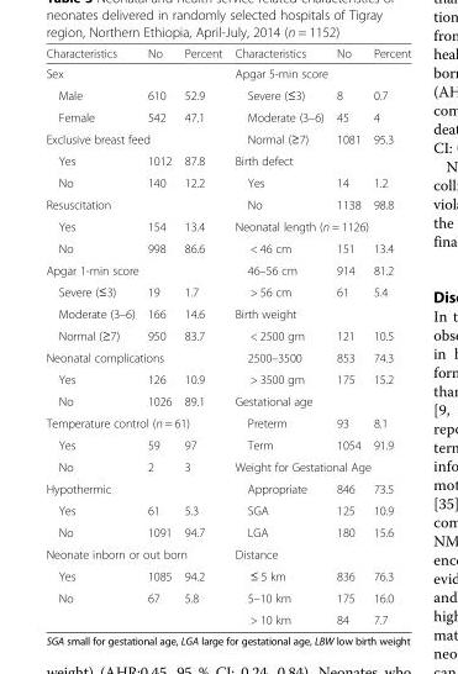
<table><thead><tr><td>Characteristics</td><td>No</td><td>Percent</td><td>Characteristics</td><td>No</td><td>Percent</td></tr></thead><tbody><tr><td colspan="3">Sex</td><td colspan="3">Apgar 5-min score</td></tr><tr><td>Male</td><td>610</td><td>52.9</td><td>Severe (≤3)</td><td>8</td><td>0.7</td></tr><tr><td>Female</td><td>542</td><td>47.1</td><td>Moderate (3–6)</td><td>45</td><td>4</td></tr><tr><td colspan="3">Exclusive breast feed</td><td>Normal (≥7)</td><td>1081</td><td>95.3</td></tr><tr><td>Yes</td><td>1012</td><td>87.8</td><td colspan="3">Birth defect</td></tr><tr><td>No</td><td>140</td><td>12.2</td><td>Yes</td><td>14</td><td>1.2</td></tr><tr><td colspan="3">Resuscitation</td><td>No</td><td>1138</td><td>98.8</td></tr><tr><td>Yes</td><td>154</td><td>13.4</td><td colspan="3">Neonatal length (n = 1126)</td></tr><tr><td>No</td><td>998</td><td>86.6</td><td>&lt; 46 cm</td><td>151</td><td>13.4</td></tr><tr><td colspan="3">Apgar 1-min score</td><td>46–56 cm</td><td>914</td><td>81.2</td></tr><tr><td>Severe (≤3)</td><td>19</td><td>1.7</td><td>&gt; 56 cm</td><td>61</td><td>5.4</td></tr><tr><td>Moderate (3–6)</td><td>166</td><td>14.6</td><td colspan="3">Birth weight</td></tr><tr><td>Normal (≥7)</td><td>950</td><td>83.7</td><td>&lt; 2500 gm</td><td>121</td><td>10.5</td></tr><tr><td colspan="3">Neonatal complications</td><td>2500–3500</td><td>853</td><td>74.3</td></tr><tr><td>Yes</td><td>126</td><td>10.9</td><td>&gt; 3500 gm</td><td>175</td><td>15.2</td></tr><tr><td>No</td><td>1026</td><td>89.1</td><td colspan="3">Gestational age</td></tr><tr><td colspan="3">Temperature control (n = 61)</td><td>Preterm</td><td>93</td><td>8.1</td></tr><tr><td>Yes</td><td>59</td><td>97</td><td>Term</td><td>1054</td><td>91.9</td></tr><tr><td>No</td><td>2</td><td>3</td><td colspan="3">Weight for Gestational Age</td></tr><tr><td colspan="3">Hypothermic</td><td>Appropriate</td><td>846</td><td>73.5</td></tr><tr><td>Yes</td><td>61</td><td>5.3</td><td>SGA</td><td>125</td><td>10.9</td></tr><tr><td>No</td><td>1091</td><td>94.7</td><td>LGA</td><td>180</td><td>15.6</td></tr><tr><td colspan="3">Neonate inborn or out born</td><td colspan="3">Distance</td></tr><tr><td>Yes</td><td>1085</td><td>94.2</td><td>≤ 5 km</td><td>836</td><td>76.3</td></tr><tr><td>No</td><td>67</td><td>5.8</td><td>5–10 km</td><td>175</td><td>16.0</td></tr><tr><td colspan="3"></td><td>&gt; 10 km</td><td>84</td><td>7.7</td></tr></tbody></table>